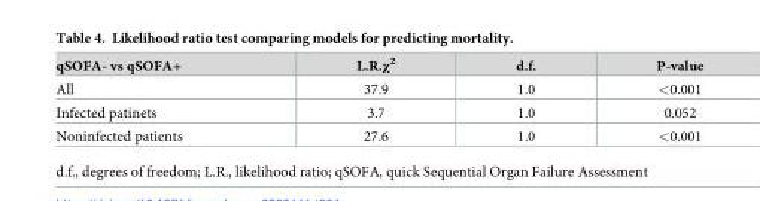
<table><thead><tr><td>qSOFA- vs qSOFA+</td><td>L.R.χ<sup>2</sup></td><td>d.f.</td><td>P-value</td></tr></thead><tbody><tr><td>All</td><td>37.9</td><td>1.0</td><td>&lt;0.001</td></tr><tr><td>Infected patinets</td><td>3.7</td><td>1.0</td><td>0.052</td></tr><tr><td>Noninfected patients</td><td>27.6</td><td>1.0</td><td>&lt;0.001</td></tr></tbody></table>